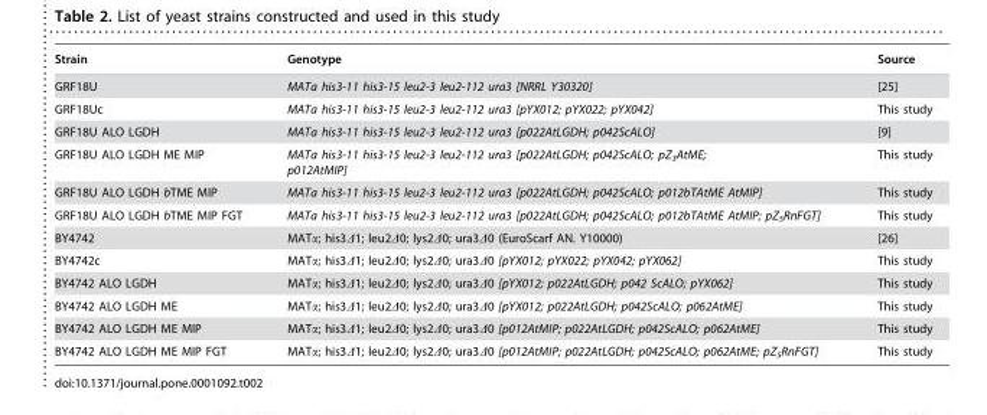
<table><thead><tr><td>Strain</td><td>Genotype</td><td>Source</td></tr></thead><tbody><tr><td>GRF18U</td><td>MATa his3-11 his3-15 leu2-3 leu2-112 ura3 [NRRL Y30320]</td><td>[25]</td></tr><tr><td>GRF18Uc</td><td>MATa his3-11 his3-15 leu2-3 leu2-112 ura3 [pYX012; pYX022; pYX042]</td><td>This study</td></tr><tr><td>GRF18U ALO LGDH</td><td>MATa his3-11 his3-15 leu2-3 leu2-112 ura3 [p022AtLGDH; p042ScALO]</td><td>[9]</td></tr><tr><td>GRF18U ALO LGDH ME MIP</td><td>MATa his3-11 his3-15 leu2-3 leu2-112 ura3 [p022AtLGDH; p042ScALO; pZ<sub>3</sub>AtME; p012AtMIP]</td><td>This study</td></tr><tr><td>GRF18U ALO LGDH bTME MIP</td><td>MATa his3-11 his3-15 leu2-3 leu2-112 ura3 [p022AtLGDH; p042ScALO; p012bTAtME AtMIP]</td><td>This study</td></tr><tr><td>GRF18U ALO LGDH bTME MIP FGT</td><td>MATa his3-11 his3-15 leu2-3 leu2-112 ura3 [p022AtLGDH; p042ScALO; p012bTAtME AtMIP; pZ<sub>5</sub>RnFGT]</td><td>This study</td></tr><tr><td>BY4742</td><td>MATα; his3Δ1; leu2Δ0; lys2Δ0; ura3Δ0 (EuroScarf AN. Y10000)</td><td>[26]</td></tr><tr><td>BY4742c</td><td>MATα; his3Δ1; leu2Δ0; lys2Δ0; ura3Δ0 [pYX012; pYX022; pYX042; pYX062]</td><td>This study</td></tr><tr><td>BY4742 ALO LGDH</td><td>MATα; his3Δ1; leu2Δ0; lys2Δ0; ura3Δ0 [pYX012; p022AtLGDH; p042 ScALO; pYX062]</td><td>This study</td></tr><tr><td>BY4742 ALO LGDH ME</td><td>MATα; his3Δ1; leu2Δ0; lys2Δ0; ura3Δ0 [pYX012; p022AtLGDH; p042ScALO; p062AtME]</td><td>This study</td></tr><tr><td>BY4742 ALO LGDH ME MIP</td><td>MATα; his3Δ1; leu2Δ0; lys2Δ0; ura3Δ0 [p012AtMIP; p022AtLGDH; p042ScALO; p062AtME]</td><td>This study</td></tr><tr><td>BY4742 ALO LGDH ME MIP FGT</td><td>MATα; his3Δ1; leu2Δ0; lys2Δ0; ura3Δ0 [p012AtMIP; p022AtLGDH; p042ScALO; p062AtME; pZ<sub>5</sub>RnFGT]</td><td>This study</td></tr></tbody></table>